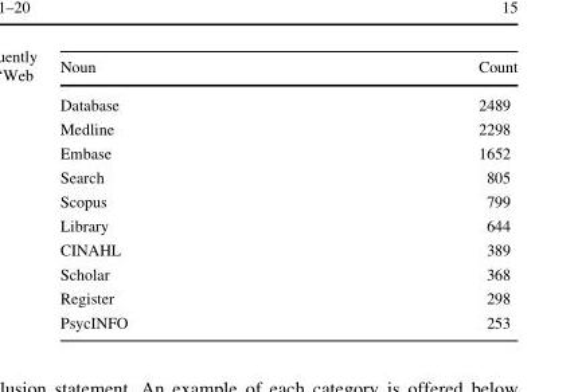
<table><thead><tr><td>Noun</td><td>Count</td></tr></thead><tbody><tr><td>Database</td><td>2489</td></tr><tr><td>Medline</td><td>2298</td></tr><tr><td>Embase</td><td>1652</td></tr><tr><td>Search</td><td>805</td></tr><tr><td>Scopus</td><td>799</td></tr><tr><td>Library</td><td>644</td></tr><tr><td>CINAHL</td><td>389</td></tr><tr><td>Scholar</td><td>368</td></tr><tr><td>Register</td><td>298</td></tr><tr><td>PsycINFO</td><td>253</td></tr></tbody></table>